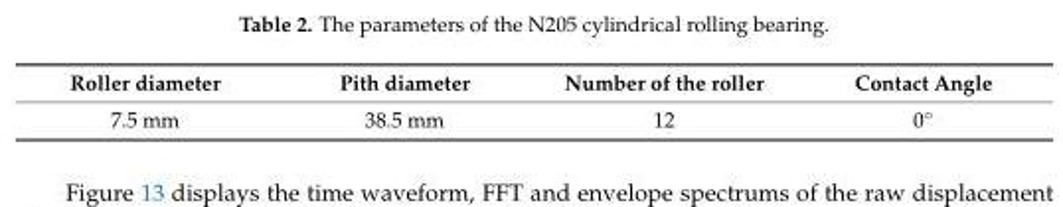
<table><thead><tr><td>Roller diameter</td><td>Pith diameter</td><td>Number of the roller</td><td>Contact Angle</td></tr></thead><tbody><tr><td>7.5 mm</td><td>38.5 mm</td><td>12</td><td>0◦</td></tr></tbody></table>